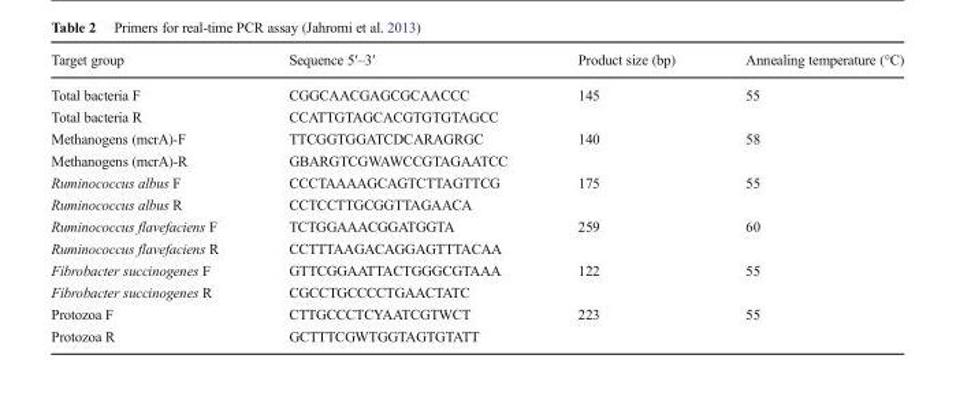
<table><thead><tr><td>Target group</td><td>Sequence 5′–3′</td><td>Product size (bp)</td><td>Annealing temperature (°C)</td></tr></thead><tbody><tr><td>Total bacteria F</td><td>CGGCAACGAGCGCAACCC</td><td>145</td><td>55</td></tr><tr><td>Total bacteria R</td><td>CCATTGTAGCACGTGTGTAGCC</td><td></td><td></td></tr><tr><td>Methanogens (mcrA)-F</td><td>TTCGGTGGATCDCARAGRGC</td><td>140</td><td>58</td></tr><tr><td>Methanogens (mcrA)-R</td><td>GBARGTCGWAWCCGTAGAATCC</td><td></td><td></td></tr><tr><td>Ruminococcus albus F</td><td>CCCTAAAAGCAGTCTTAGTTCG</td><td>175</td><td>55</td></tr><tr><td>Ruminococcus albus R</td><td>CCTCCTTGCGGTTAGAACA</td><td></td><td></td></tr><tr><td>Ruminococcus flavefaciens F</td><td>TCTGGAAACGGATGGTA</td><td>259</td><td>60</td></tr><tr><td>Ruminococcus flavefaciens R</td><td>CCTTTAAGACAGGAGTTTACAA</td><td></td><td></td></tr><tr><td>Fibrobacter succinogenes F</td><td>GTTCGGAATTACTGGGCGTAAA</td><td>122</td><td>55</td></tr><tr><td>Fibrobacter succinogenes R</td><td>CGCCTGCCCCTGAACTATC</td><td></td><td></td></tr><tr><td>Protozoa F</td><td>CTTGCCCTCYAATCGTWCT</td><td>223</td><td>55</td></tr><tr><td>Protozoa R</td><td>GCTTTCGWTGGTAGTGTATT</td><td></td><td></td></tr></tbody></table>